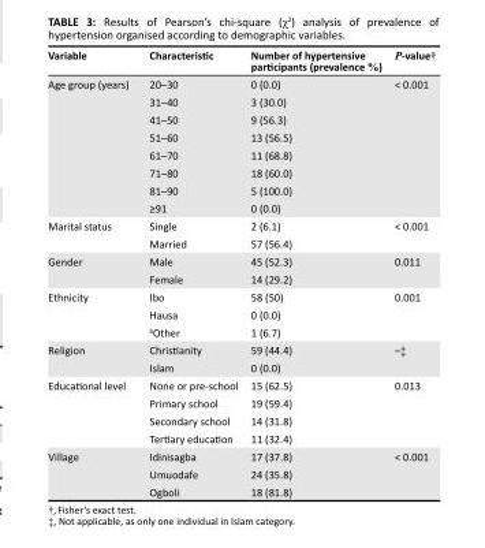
<table><thead><tr><td>Variable</td><td>Characteristic</td><td>Number of hypertensive participants (prevalence %)</td><td>P-value†</td></tr></thead><tbody><tr><td rowspan="8">Age group (years)</td><td>20–30</td><td>0 (0.0)</td><td>&lt; 0.001</td></tr><tr><td>31–40</td><td>3 (30.0)</td><td></td></tr><tr><td>41–50</td><td>9 (56.3)</td><td></td></tr><tr><td>51–60</td><td>13 (56.5)</td><td></td></tr><tr><td>61–70</td><td>11 (68.8)</td><td></td></tr><tr><td>71–80</td><td>18 (60.0)</td><td></td></tr><tr><td>81–90</td><td>5 (100.0)</td><td></td></tr><tr><td>≥91</td><td>0 (0.0)</td><td></td></tr><tr><td rowspan="2">Marital status</td><td>Single</td><td>2 (6.1)</td><td>&lt; 0.001</td></tr><tr><td>Married</td><td>57 (56.4)</td><td></td></tr><tr><td rowspan="2">Gender</td><td>Male</td><td>45 (52.3)</td><td>0.011</td></tr><tr><td>Female</td><td>14 (29.2)</td><td></td></tr><tr><td rowspan="3">Ethnicity</td><td>Ibo</td><td>58 (50)</td><td>0.001</td></tr><tr><td>Hausa</td><td>0 (0.0)</td><td></td></tr><tr><td><sup>b</sup>Other</td><td>1 (6.7)</td><td></td></tr><tr><td rowspan="2">Religion</td><td>Christianity</td><td>59 (44.4)</td><td>–‡</td></tr><tr><td>Islam</td><td>0 (0.0)</td><td></td></tr><tr><td rowspan="4">Educational level</td><td>None or pre-school</td><td>15 (62.5)</td><td>0.013</td></tr><tr><td>Primary school</td><td>19 (59.4)</td><td></td></tr><tr><td>Secondary school</td><td>14 (31.8)</td><td></td></tr><tr><td>Tertiary education</td><td>11 (32.4)</td><td></td></tr><tr><td rowspan="3">Village</td><td>Idinisagba</td><td>17 (37.8)</td><td>&lt; 0.001</td></tr><tr><td>Umuodafe</td><td>24 (35.8)</td><td></td></tr><tr><td>Ogboli</td><td>18 (81.8)</td><td></td></tr></tbody></table>